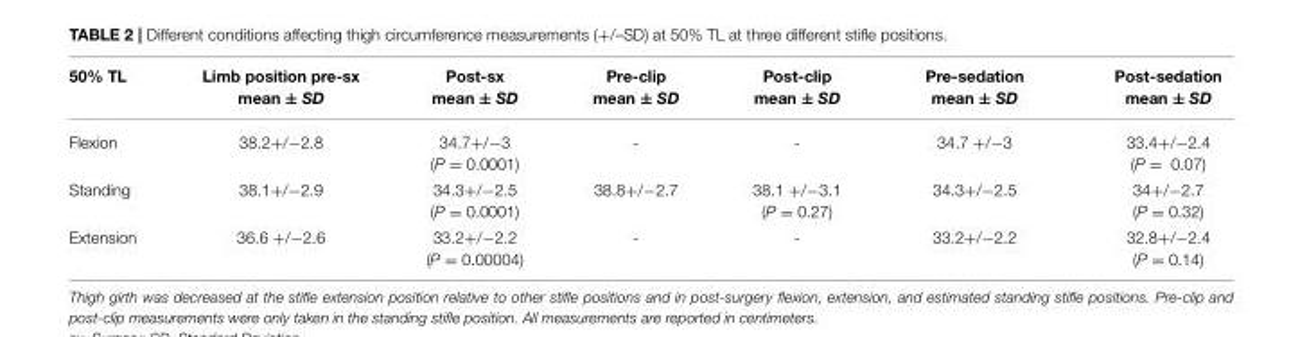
<table><thead><tr><td>50% TL</td><td>Limb position pre-sx mean ± SD</td><td>Post-sx mean ± SD</td><td>Pre-clip mean ± SD</td><td>Post-clip mean ± SD</td><td>Pre-sedation mean ± SD</td><td>Post-sedation mean ± SD</td></tr></thead><tbody><tr><td>Flexion</td><td>38.2+/−2.8</td><td>34.7+/−3 (P = 0.0001)</td><td>-</td><td>-</td><td>34.7 +/−3</td><td>33.4+/−2.4 (P = 0.07)</td></tr><tr><td>Standing</td><td>38.1+/−2.9</td><td>34.3+/−2.5 (P = 0.0001)</td><td>38.8+/−2.7</td><td>38.1 +/−3.1 (P = 0.27)</td><td>34.3+/−2.5</td><td>34+/−2.7 (P = 0.32)</td></tr><tr><td>Extension</td><td>36.6 +/−2.6</td><td>33.2+/−2.2 (P = 0.00004)</td><td>-</td><td>-</td><td>33.2+/−2.2</td><td>32.8+/−2.4 (P = 0.14)</td></tr></tbody></table>